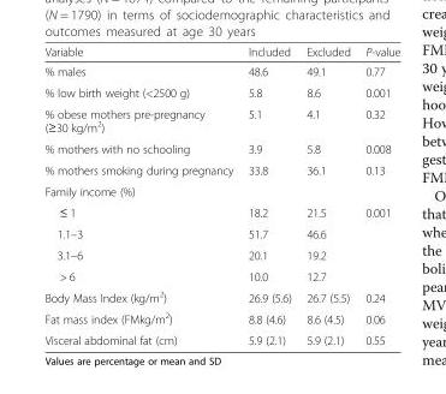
<table><thead><tr><td>Variable</td><td>Included</td><td>Excluded</td><td>P-value</td></tr></thead><tbody><tr><td>% males</td><td>48.6</td><td>49.1</td><td>0.77</td></tr><tr><td>% low birth weight (&lt;2500 g)</td><td>5.8</td><td>8.6</td><td>0.001</td></tr><tr><td>% obese mothers pre-pregnancy (≥30 kg/m<sup>2</sup>)</td><td>5.1</td><td>4.1</td><td>0.32</td></tr><tr><td>% mothers with no schooling</td><td>3.9</td><td>5.8</td><td>0.008</td></tr><tr><td>% mothers smoking during pregnancy</td><td>33.8</td><td>36.1</td><td>0.13</td></tr><tr><td colspan="4">Family income (%)</td></tr><tr><td>≤ 1</td><td>18.2</td><td>21.5</td><td>0.001</td></tr><tr><td>1.1–3</td><td>51.7</td><td>46.6</td><td></td></tr><tr><td>3.1–6</td><td>20.1</td><td>19.2</td><td></td></tr><tr><td>&gt; 6</td><td>10.0</td><td>12.7</td><td></td></tr><tr><td>Body Mass Index (kg/m<sup>2</sup>)</td><td>26.9 (5.6)</td><td>26.7 (5.5)</td><td>0.24</td></tr><tr><td>Fat mass index (FMkg/m<sup>2</sup>)</td><td>8.8 (4.6)</td><td>8.6 (4.5)</td><td>0.06</td></tr><tr><td>Visceral abdominal fat (cm)</td><td>5.9 (2.1)</td><td>5.9 (2.1)</td><td>0.55</td></tr></tbody></table>